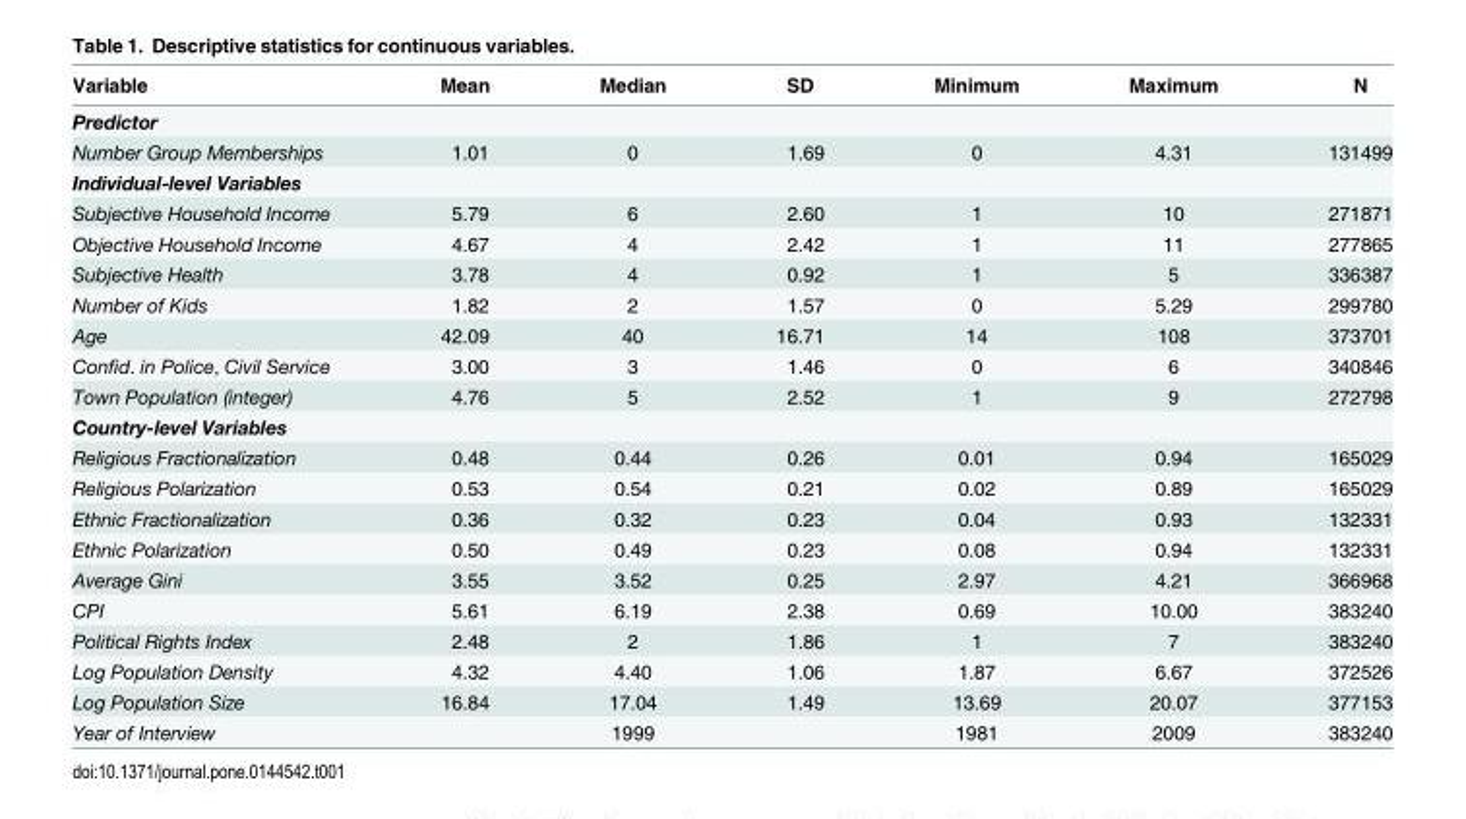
<table><thead><tr><td>Variable</td><td>Mean</td><td>Median</td><td>SD</td><td>Minimum</td><td>Maximum</td><td>N</td></tr></thead><tbody><tr><td colspan="7">Predictor</td></tr><tr><td>Number Group Memberships</td><td>1.01</td><td>0</td><td>1.69</td><td>0</td><td>4.31</td><td>131499</td></tr><tr><td colspan="7">Individual-level Variables</td></tr><tr><td>Subjective Household Income</td><td>5.79</td><td>6</td><td>2.60</td><td>1</td><td>10</td><td>271871</td></tr><tr><td>Objective Household Income</td><td>4.67</td><td>4</td><td>2.42</td><td>1</td><td>11</td><td>277865</td></tr><tr><td>Subjective Health</td><td>3.78</td><td>4</td><td>0.92</td><td>1</td><td>5</td><td>336387</td></tr><tr><td>Number of Kids</td><td>1.82</td><td>2</td><td>1.57</td><td>0</td><td>5.29</td><td>299780</td></tr><tr><td>Age</td><td>42.09</td><td>40</td><td>16.71</td><td>14</td><td>108</td><td>373701</td></tr><tr><td>Confid. in Police, Civil Service</td><td>3.00</td><td>3</td><td>1.46</td><td>0</td><td>6</td><td>340846</td></tr><tr><td>Town Population (integer)</td><td>4.76</td><td>5</td><td>2.52</td><td>1</td><td>9</td><td>272798</td></tr><tr><td colspan="7">Country-level Variables</td></tr><tr><td>Religious Fractionalization</td><td>0.48</td><td>0.44</td><td>0.26</td><td>0.01</td><td>0.94</td><td>165029</td></tr><tr><td>Religious Polarization</td><td>0.53</td><td>0.54</td><td>0.21</td><td>0.02</td><td>0.89</td><td>165029</td></tr><tr><td>Ethnic Fractionalization</td><td>0.36</td><td>0.32</td><td>0.23</td><td>0.04</td><td>0.93</td><td>132331</td></tr><tr><td>Ethnic Polarization</td><td>0.50</td><td>0.49</td><td>0.23</td><td>0.08</td><td>0.94</td><td>132331</td></tr><tr><td>Average Gini</td><td>3.55</td><td>3.52</td><td>0.25</td><td>2.97</td><td>4.21</td><td>366968</td></tr><tr><td>CPI</td><td>5.61</td><td>6.19</td><td>2.38</td><td>0.69</td><td>10.00</td><td>383240</td></tr><tr><td>Political Rights Index</td><td>2.48</td><td>2</td><td>1.86</td><td>1</td><td>7</td><td>383240</td></tr><tr><td>Log Population Density</td><td>4.32</td><td>4.40</td><td>1.06</td><td>1.87</td><td>6.67</td><td>372526</td></tr><tr><td>Log Population Size</td><td>16.84</td><td>17.04</td><td>1.49</td><td>13.69</td><td>20.07</td><td>377153</td></tr><tr><td>Year of Interview</td><td></td><td>1999</td><td></td><td>1981</td><td>2009</td><td>383240</td></tr></tbody></table>